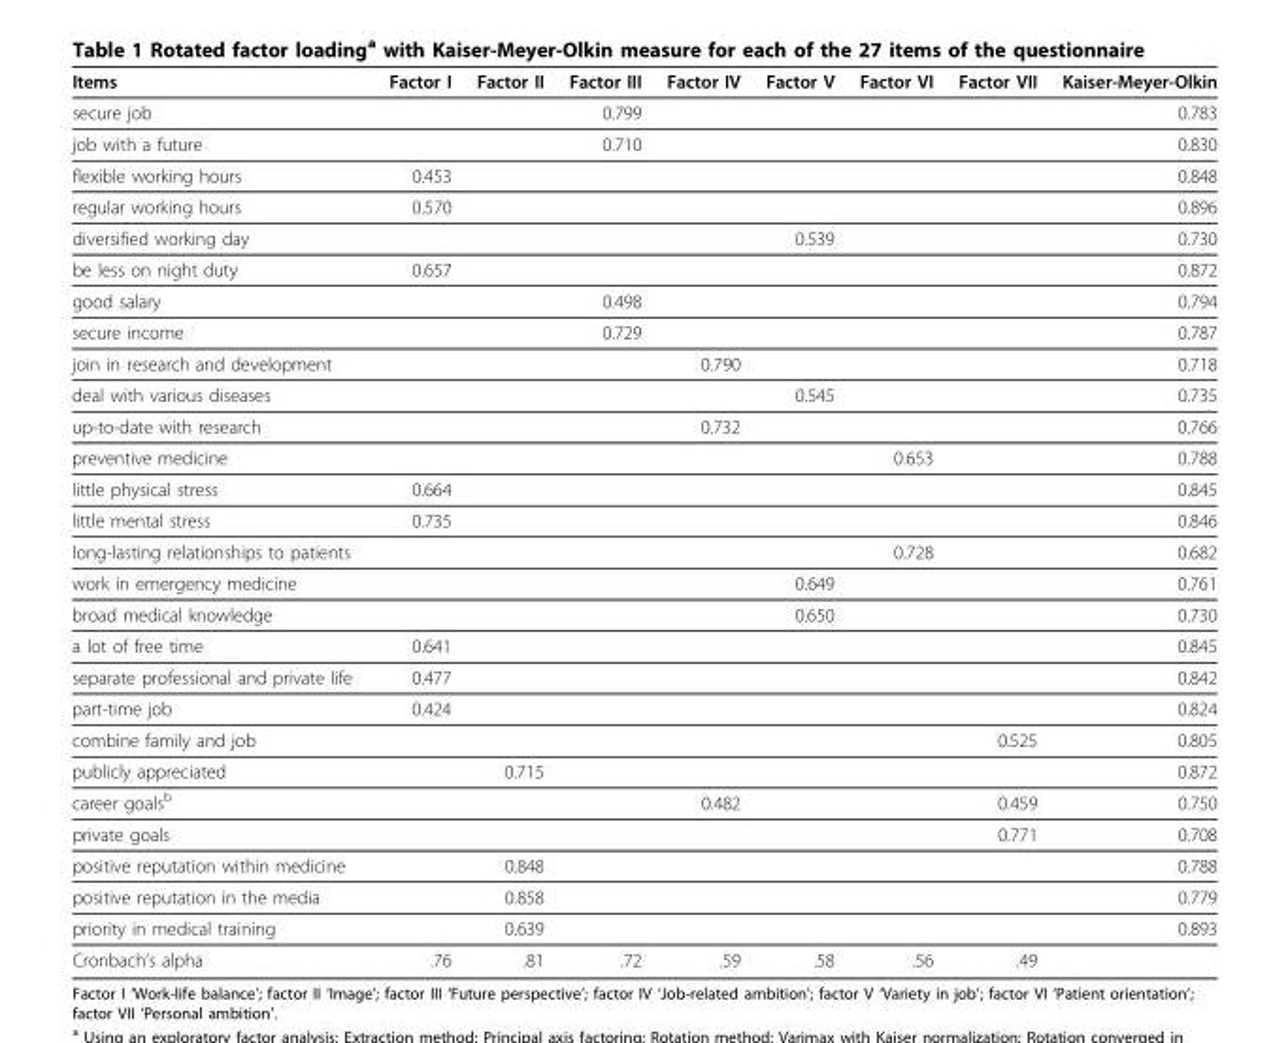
<table><thead><tr><td>Items</td><td>Factor I</td><td>Factor II</td><td>Factor III</td><td>Factor IV</td><td>Factor V</td><td>Factor VI</td><td>Factor VII</td><td>Kaiser-Meyer-Olkin</td></tr></thead><tbody><tr><td>secure job</td><td></td><td></td><td>0.799</td><td></td><td></td><td></td><td></td><td>0.783</td></tr><tr><td>job with a future</td><td></td><td></td><td>0.710</td><td></td><td></td><td></td><td></td><td>0.830</td></tr><tr><td>flexible working hours</td><td>0.453</td><td></td><td></td><td></td><td></td><td></td><td></td><td>0.848</td></tr><tr><td>regular working hours</td><td>0.570</td><td></td><td></td><td></td><td></td><td></td><td></td><td>0.896</td></tr><tr><td>diversified working day</td><td></td><td></td><td></td><td></td><td>0.539</td><td></td><td></td><td>0.730</td></tr><tr><td>be less on night duty</td><td>0.657</td><td></td><td></td><td></td><td></td><td></td><td></td><td>0.872</td></tr><tr><td>good salary</td><td></td><td></td><td>0.498</td><td></td><td></td><td></td><td></td><td>0.794</td></tr><tr><td>secure income</td><td></td><td></td><td>0.729</td><td></td><td></td><td></td><td></td><td>0.787</td></tr><tr><td>join in research and development</td><td></td><td></td><td></td><td>0.790</td><td></td><td></td><td></td><td>0.718</td></tr><tr><td>deal with various diseases</td><td></td><td></td><td></td><td></td><td>0.545</td><td></td><td></td><td>0.735</td></tr><tr><td>up-to-date with research</td><td></td><td></td><td></td><td>0.732</td><td></td><td></td><td></td><td>0.766</td></tr><tr><td>preventive medicine</td><td></td><td></td><td></td><td></td><td></td><td>0.653</td><td></td><td>0.788</td></tr><tr><td>little physical stress</td><td>0.664</td><td></td><td></td><td></td><td></td><td></td><td></td><td>0.845</td></tr><tr><td>little mental stress</td><td>0.735</td><td></td><td></td><td></td><td></td><td></td><td></td><td>0.846</td></tr><tr><td>long-lasting relationships to patients</td><td></td><td></td><td></td><td></td><td></td><td>0.728</td><td></td><td>0.682</td></tr><tr><td>work in emergency medicine</td><td></td><td></td><td></td><td></td><td>0.649</td><td></td><td></td><td>0.761</td></tr><tr><td>broad medical knowledge</td><td></td><td></td><td></td><td></td><td>0.650</td><td></td><td></td><td>0.730</td></tr><tr><td>a lot of free time</td><td>0.641</td><td></td><td></td><td></td><td></td><td></td><td></td><td>0.845</td></tr><tr><td>separate professional and private life</td><td>0.477</td><td></td><td></td><td></td><td></td><td></td><td></td><td>0.842</td></tr><tr><td>part-time job</td><td>0.424</td><td></td><td></td><td></td><td></td><td></td><td></td><td>0.824</td></tr><tr><td>combine family and job</td><td></td><td></td><td></td><td></td><td></td><td></td><td>0.525</td><td>0.805</td></tr><tr><td>publicly appreciated</td><td></td><td>0.715</td><td></td><td></td><td></td><td></td><td></td><td>0.872</td></tr><tr><td>career goals<sup>b</sup></td><td></td><td></td><td></td><td>0.482</td><td></td><td></td><td>0.459</td><td>0.750</td></tr><tr><td>private goals</td><td></td><td></td><td></td><td></td><td></td><td></td><td>0.771</td><td>0.708</td></tr><tr><td>positive reputation within medicine</td><td></td><td>0.848</td><td></td><td></td><td></td><td></td><td></td><td>0.788</td></tr><tr><td>positive reputation in the media</td><td></td><td>0.858</td><td></td><td></td><td></td><td></td><td></td><td>0.779</td></tr><tr><td>priority in medical training</td><td></td><td>0.639</td><td></td><td></td><td></td><td></td><td></td><td>0.893</td></tr><tr><td>Cronbach’s alpha</td><td>.76</td><td>.81</td><td>.72</td><td>.59</td><td>.58</td><td>.56</td><td>.49</td><td></td></tr></tbody></table>